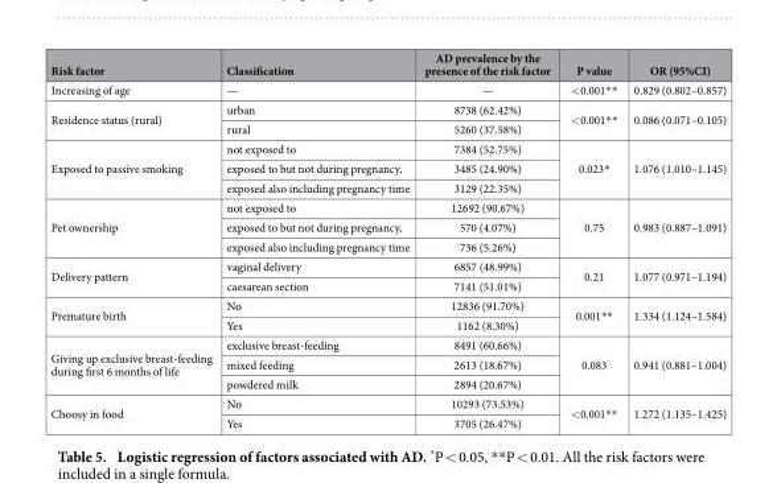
<table><thead><tr><td>Risk factor</td><td>Classification</td><td>AD prevalence by the presence of the risk factor</td><td>P value</td><td>OR (95%CI)</td></tr></thead><tbody><tr><td>Increasing of age</td><td>—</td><td>—</td><td>&lt; 0.001* *</td><td>0.829 (0.802–0.857)</td></tr><tr><td rowspan="2">Residence status (rural)</td><td>urban</td><td>8738 (62.42%)</td><td rowspan="2">&lt; 0.001* *</td><td rowspan="2">0.086 (0.071–0.105)</td></tr><tr><td>rural</td><td>5260 (37.58%)</td></tr><tr><td rowspan="3">Exposed to passive smoking</td><td>not exposed to</td><td>7384 (52.75%)</td><td rowspan="3">0.023*</td><td rowspan="3">1.076 (1.010–1.145)</td></tr><tr><td>exposed to but not during pregnancy,</td><td>3485 (24.90%)</td></tr><tr><td>exposed also including pregnancy time</td><td>3129 (22.35%)</td></tr><tr><td rowspan="3">Pet ownership</td><td>not exposed to</td><td>12692 (90.67%)</td><td rowspan="3">0.75</td><td rowspan="3">0.983 (0.887–1.091)</td></tr><tr><td>exposed to but not during pregnancy,</td><td>570 (4.07%)</td></tr><tr><td>exposed also including pregnancy time</td><td>736 (5.26%)</td></tr><tr><td rowspan="2">Delivery pattern</td><td>vaginal delivery</td><td>6857 (48.99%)</td><td rowspan="2">0.21</td><td rowspan="2">1.077 (0.971–1.194)</td></tr><tr><td>caesarean section</td><td>7141 (51.01%)</td></tr><tr><td rowspan="2">Premature birth</td><td>No</td><td>12836 (91.70%)</td><td rowspan="2">0.001* *</td><td rowspan="2">1.334 (1.124–1.584)</td></tr><tr><td>Yes</td><td>1162 (8.30%)</td></tr><tr><td rowspan="3">Giving up exclusive breast-feeding during first 6 months of life</td><td>exclusive breast-feeding</td><td>8491 (60.66%)</td><td rowspan="3">0.083</td><td rowspan="3">0.941 (0.881–1.004)</td></tr><tr><td>mixed feeding</td><td>2613 (18.67%)</td></tr><tr><td>powdered milk</td><td>2894 (20.67%)</td></tr><tr><td rowspan="2">Choosy in food</td><td>No</td><td>10293 (73.53%)</td><td rowspan="2">&lt; 0.001* *</td><td rowspan="2">1.272 (1.135–1.425)</td></tr><tr><td>Yes</td><td>3705 (26.47%)</td></tr></tbody></table>